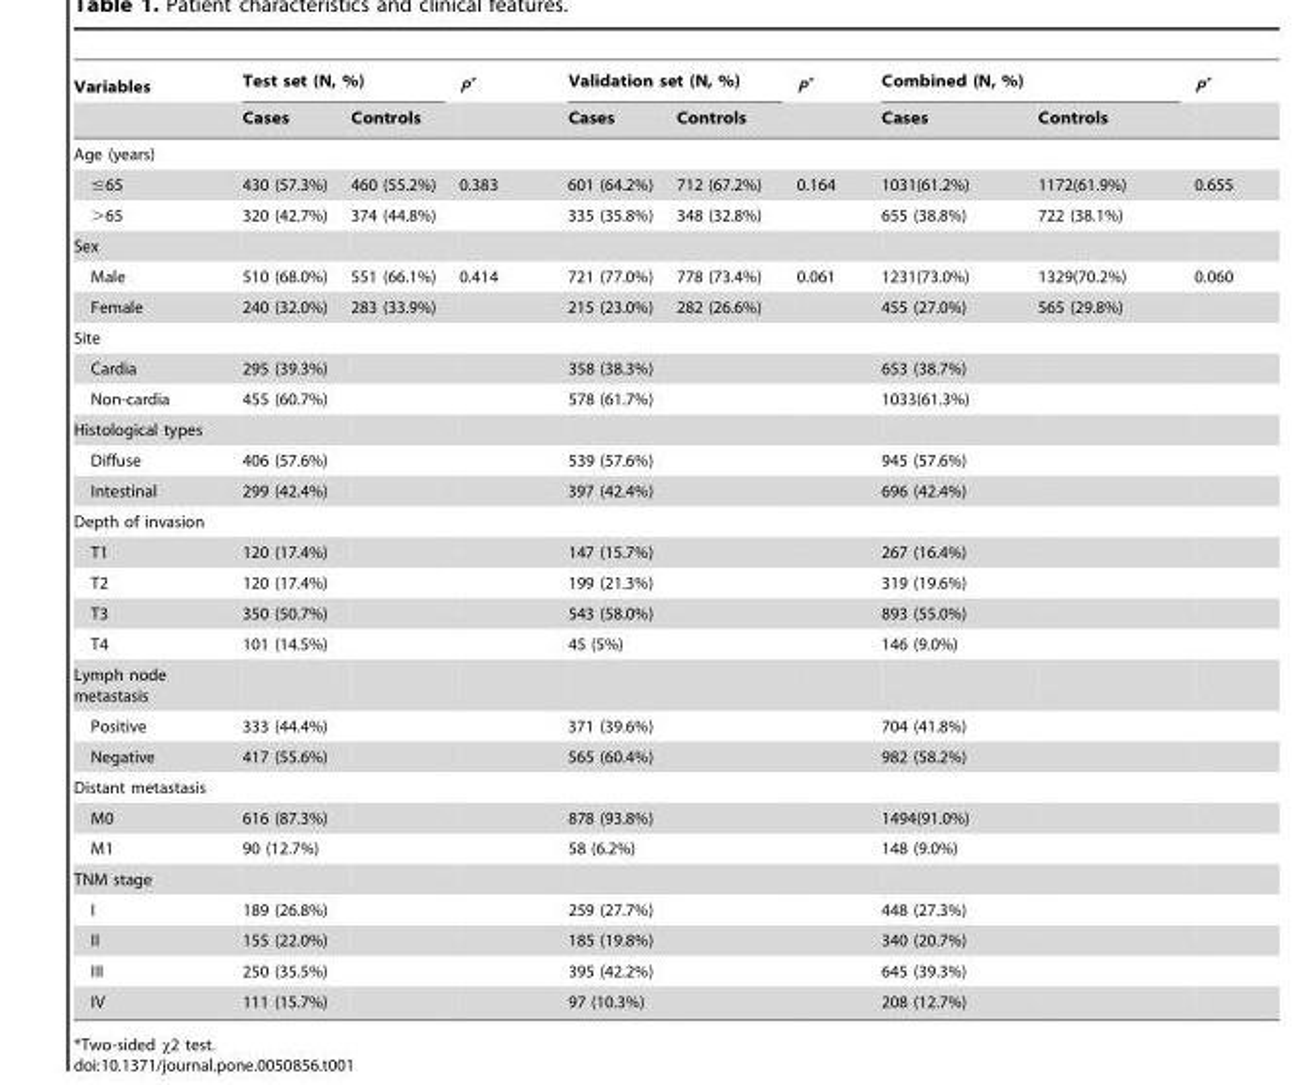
<table><thead><tr><td rowspan="2">Variables</td><td colspan="2">Test set (N, %)</td><td rowspan="2">P*</td><td colspan="2">Validation set (N, %)</td><td rowspan="2">P*</td><td colspan="2">Combined (N, %)</td><td rowspan="2">P*</td></tr><tr><td>Cases</td><td>Controls</td><td>Cases</td><td>Controls</td><td>Cases</td><td>Controls</td></tr></thead><tbody><tr><td colspan="10">Age (years)</td></tr><tr><td>≤65</td><td>430 (57.3%)</td><td>460 (55.2%)</td><td>0.383</td><td>601 (64.2%)</td><td>712 (67.2%)</td><td>0.164</td><td>1031(61.2%)</td><td>1172(61.9%)</td><td>0.655</td></tr><tr><td>&gt;65</td><td>320 (42.7%)</td><td>374 (44.8%)</td><td></td><td>335 (35.8%)</td><td>348 (32.8%)</td><td></td><td>655 (38.8%)</td><td>722 (38.1%)</td><td></td></tr><tr><td colspan="10">Sex</td></tr><tr><td>Male</td><td>510 (68.0%)</td><td>551 (66.1%)</td><td>0.414</td><td>721 (77.0%)</td><td>778 (73.4%)</td><td>0.061</td><td>1231(73.0%)</td><td>1329(70.2%)</td><td>0.060</td></tr><tr><td>Female</td><td>240 (32.0%)</td><td>283 (33.9%)</td><td></td><td>215 (23.0%)</td><td>282 (26.6%)</td><td></td><td>455 (27.0%)</td><td>565 (29.8%)</td><td></td></tr><tr><td colspan="10">Site</td></tr><tr><td>Cardia</td><td>295 (39.3%)</td><td></td><td></td><td>358 (38.3%)</td><td></td><td></td><td>653 (38.7%)</td><td></td><td></td></tr><tr><td>Non-cardia</td><td>455 (60.7%)</td><td></td><td></td><td>578 (61.7%)</td><td></td><td></td><td>1033(61.3%)</td><td></td><td></td></tr><tr><td colspan="10">Histological types</td></tr><tr><td>Diffuse</td><td>406 (57.6%)</td><td></td><td></td><td>539 (57.6%)</td><td></td><td></td><td>945 (57.6%)</td><td></td><td></td></tr><tr><td>Intestinal</td><td>299 (42.4%)</td><td></td><td></td><td>397 (42.4%)</td><td></td><td></td><td>696 (42.4%)</td><td></td><td></td></tr><tr><td colspan="10">Depth of invasion</td></tr><tr><td>T1</td><td>120 (17.4%)</td><td></td><td></td><td>147 (15.7%)</td><td></td><td></td><td>267 (16.4%)</td><td></td><td></td></tr><tr><td>T2</td><td>120 (17.4%)</td><td></td><td></td><td>199 (21.3%)</td><td></td><td></td><td>319 (19.6%)</td><td></td><td></td></tr><tr><td>T3</td><td>350 (50.7%)</td><td></td><td></td><td>543 (58.0%)</td><td></td><td></td><td>893 (55.0%)</td><td></td><td></td></tr><tr><td>T4</td><td>101 (14.5%)</td><td></td><td></td><td>45 (5%)</td><td></td><td></td><td>146 (9.0%)</td><td></td><td></td></tr><tr><td colspan="10">Lymph node metastasis</td></tr><tr><td>Positive</td><td>333 (44.4%)</td><td></td><td></td><td>371 (39.6%)</td><td></td><td></td><td>704 (41.8%)</td><td></td><td></td></tr><tr><td>Negative</td><td>417 (55.6%)</td><td></td><td></td><td>565 (60.4%)</td><td></td><td></td><td>982 (58.2%)</td><td></td><td></td></tr><tr><td colspan="10">Distant metastasis</td></tr><tr><td>M0</td><td>616 (87.3%)</td><td></td><td></td><td>878 (93.8%)</td><td></td><td></td><td>1494(91.0%)</td><td></td><td></td></tr><tr><td>M1</td><td>90 (12.7%)</td><td></td><td></td><td>58 (6.2%)</td><td></td><td></td><td>148 (9.0%)</td><td></td><td></td></tr><tr><td colspan="10">TNM stage</td></tr><tr><td>I</td><td>189 (26.8%)</td><td></td><td></td><td>259 (27.7%)</td><td></td><td></td><td>448 (27.3%)</td><td></td><td></td></tr><tr><td>II</td><td>155 (22.0%)</td><td></td><td></td><td>185 (19.8%)</td><td></td><td></td><td>340 (20.7%)</td><td></td><td></td></tr><tr><td>III</td><td>250 (35.5%)</td><td></td><td></td><td>395 (42.2%)</td><td></td><td></td><td>645 (39.3%)</td><td></td><td></td></tr><tr><td>IV</td><td>111 (15.7%)</td><td></td><td></td><td>97 (10.3%)</td><td></td><td></td><td>208 (12.7%)</td><td></td><td></td></tr></tbody></table>